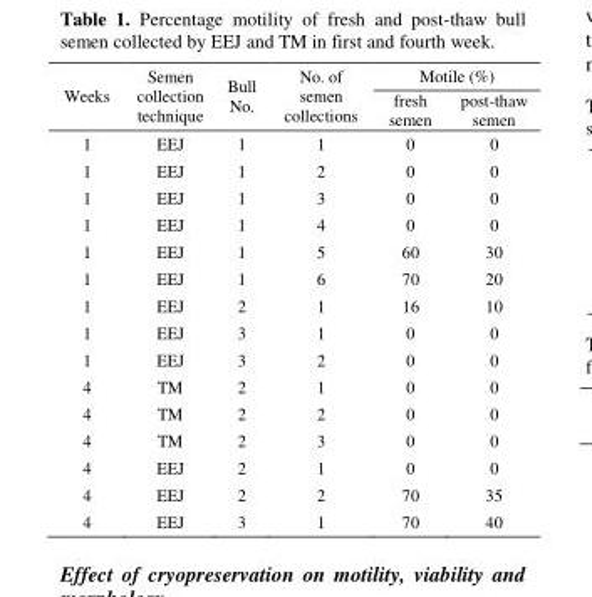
<table><thead><tr><td rowspan="2">Weeks</td><td rowspan="2">Semen collection technique</td><td rowspan="2">Bull No.</td><td rowspan="2">No. of semen collections</td><td colspan="2">Motile (%)</td></tr><tr><td>fresh semen</td><td>post-thaw semen</td></tr></thead><tbody><tr><td>1</td><td>EEJ</td><td>1</td><td>1</td><td>0</td><td>0</td></tr><tr><td>1</td><td>EEJ</td><td>1</td><td>2</td><td>0</td><td>0</td></tr><tr><td>1</td><td>EEJ</td><td>1</td><td>3</td><td>0</td><td>0</td></tr><tr><td>1</td><td>EEJ</td><td>1</td><td>4</td><td>0</td><td>0</td></tr><tr><td>1</td><td>EEJ</td><td>1</td><td>5</td><td>60</td><td>30</td></tr><tr><td>1</td><td>EEJ</td><td>1</td><td>6</td><td>70</td><td>20</td></tr><tr><td>1</td><td>EEJ</td><td>2</td><td>1</td><td>16</td><td>10</td></tr><tr><td>1</td><td>EEJ</td><td>3</td><td>1</td><td>0</td><td>0</td></tr><tr><td>1</td><td>EEJ</td><td>3</td><td>2</td><td>0</td><td>0</td></tr><tr><td>4</td><td>TM</td><td>2</td><td>1</td><td>0</td><td>0</td></tr><tr><td>4</td><td>TM</td><td>2</td><td>2</td><td>0</td><td>0</td></tr><tr><td>4</td><td>TM</td><td>2</td><td>3</td><td>0</td><td>0</td></tr><tr><td>4</td><td>EEJ</td><td>2</td><td>1</td><td>0</td><td>0</td></tr><tr><td>4</td><td>EEJ</td><td>2</td><td>2</td><td>70</td><td>35</td></tr><tr><td>4</td><td>EEJ</td><td>3</td><td>1</td><td>70</td><td>40</td></tr></tbody></table>